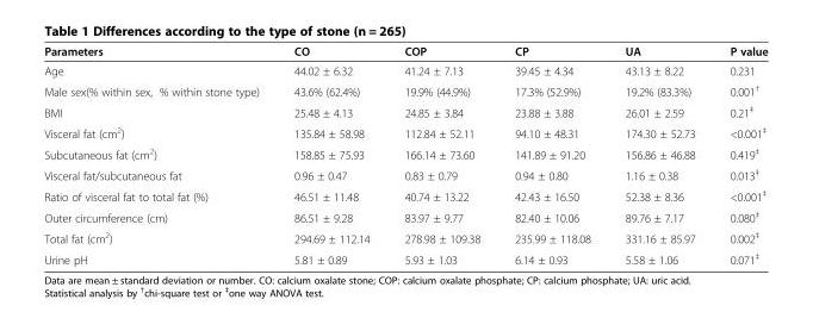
<table><thead><tr><td>Parameters</td><td>CO</td><td>COP</td><td>CP</td><td>UA</td><td>P value</td></tr></thead><tbody><tr><td>Age</td><td>44.02 ± 6.32</td><td>41.24 ± 7.13</td><td>39.45 ± 4.34</td><td>43.13 ± 8.22</td><td>0.231</td></tr><tr><td>Male sex(% within sex, % within stone type)</td><td>43.6% (62.4%)</td><td>19.9% (44.9%)</td><td>17.3% (52.9%)</td><td>19.2% (83.3%)</td><td>0.001<sup>†</sup></td></tr><tr><td>BMI</td><td>25.48 ± 4.13</td><td>24.85 ± 3.84</td><td>23.88 ± 3.88</td><td>26.01 ± 2.59</td><td>0.21<sup>‡</sup></td></tr><tr><td>Visceral fat (cm<sup>2</sup>)</td><td>135.84 ± 58.98</td><td>112.84 ± 52.11</td><td>94.10 ± 48.31</td><td>174.30 ± 52.73</td><td>&lt;0.001<sup>‡</sup></td></tr><tr><td>Subcutaneous fat (cm<sup>2</sup>)</td><td>158.85 ± 75.93</td><td>166.14 ± 73.60</td><td>141.89 ± 91.20</td><td>156.86 ± 46.88</td><td>0.419<sup>‡</sup></td></tr><tr><td>Visceral fat/subcutaneous fat</td><td>0.96 ± 0.47</td><td>0.83 ± 0.79</td><td>0.94 ± 0.80</td><td>1.16 ± 0.38</td><td>0.013<sup>‡</sup></td></tr><tr><td>Ratio of visceral fat to total fat (%)</td><td>46.51 ± 11.48</td><td>40.74 ± 13.22</td><td>42.43 ± 16.50</td><td>52.38 ± 8.36</td><td>&lt;0.001<sup>‡</sup></td></tr><tr><td>Outer circumference (cm)</td><td>86.51 ± 9.28</td><td>83.97 ± 9.77</td><td>82.40 ± 10.06</td><td>89.76 ± 7.17</td><td>0.080<sup>‡</sup></td></tr><tr><td>Total fat (cm<sup>2</sup>)</td><td>294.69 ± 112.14</td><td>278.98 ± 109.38</td><td>235.99 ± 118.08</td><td>331.16 ± 85.97</td><td>0.002<sup>‡</sup></td></tr><tr><td>Urine pH</td><td>5.81 ± 0.89</td><td>5.93 ± 1.03</td><td>6.14 ± 0.93</td><td>5.58 ± 1.06</td><td>0.071<sup>‡</sup></td></tr></tbody></table>